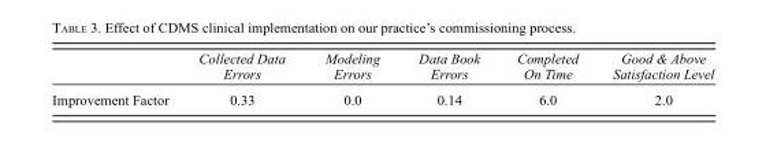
<table><thead><tr><td></td><td>Collected Data Errors</td><td>Modeling Errors</td><td>Data Book Errors</td><td>Completed On Time</td><td>Good &amp; Above Satisfaction Level</td></tr></thead><tbody><tr><td>Improvement Factor</td><td>0.33</td><td>0.0</td><td>0.14</td><td>6.0</td><td>2.0</td></tr></tbody></table>